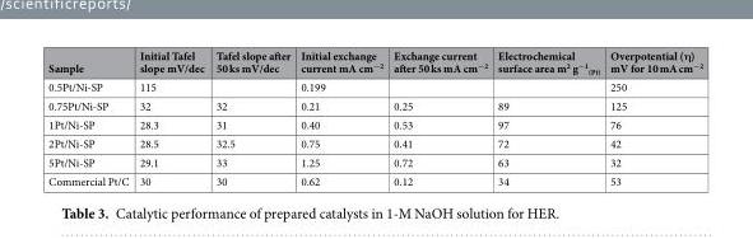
<table><thead><tr><td>Sample</td><td>Initial Tafel slope mV/dec</td><td>Tafel slope after 50 ks mV/dec</td><td>Initial exchange current mA cm<sup>−2</sup></td><td>Exchange current after 50 ks mA cm<sup>−2</sup></td><td>Electrochemical surface area m<sup>2</sup> g<sup>−1</sup> <sub>(Pt)</sub></td><td>Overpotential (η) mV for 10 mA cm<sup>−2</sup></td></tr></thead><tbody><tr><td>0.5Pt/Ni-SP</td><td>115</td><td></td><td>0.199</td><td></td><td></td><td>250</td></tr><tr><td>0.75Pt/Ni-SP</td><td>32</td><td>32</td><td>0.21</td><td>0.25</td><td>89</td><td>125</td></tr><tr><td>1Pt/Ni-SP</td><td>28.3</td><td>31</td><td>0.40</td><td>0.53</td><td>97</td><td>76</td></tr><tr><td>2Pt/Ni-SP</td><td>28.5</td><td>32.5</td><td>0.75</td><td>0.41</td><td>72</td><td>42</td></tr><tr><td>5Pt/Ni-SP</td><td>29.1</td><td>33</td><td>1.25</td><td>0.72</td><td>63</td><td>32</td></tr><tr><td>Commercial Pt/C</td><td>30</td><td>30</td><td>0.62</td><td>0.12</td><td>34</td><td>53</td></tr></tbody></table>